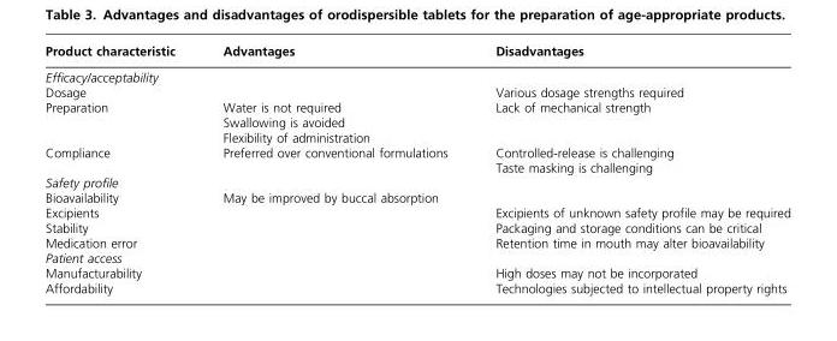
<table><thead><tr><td>Product characteristic</td><td>Advantages</td><td>Disadvantages</td></tr></thead><tbody><tr><td colspan="3">Efficacy/acceptability</td></tr><tr><td>Dosage</td><td></td><td>Various dosage strengths required</td></tr><tr><td>Preparation</td><td>Water is not required Swallowing is avoided Flexibility of administration</td><td>Lack of mechanical strength</td></tr><tr><td>Compliance</td><td>Preferred over conventional formulations</td><td>Controlled-release is challenging Taste masking is challenging</td></tr><tr><td colspan="3">Safety profile</td></tr><tr><td>Bioavailability</td><td>May be improved by buccal absorption</td><td></td></tr><tr><td>Excipients</td><td></td><td>Excipients of unknown safety profile may be required</td></tr><tr><td>Stability</td><td></td><td>Packaging and storage conditions can be critical</td></tr><tr><td>Medication error</td><td></td><td>Retention time in mouth may alter bioavailability</td></tr><tr><td colspan="3">Patient access</td></tr><tr><td>Manufacturability</td><td></td><td>High doses may not be incorporated</td></tr><tr><td>Affordability</td><td></td><td>Technologies subjected to intellectual property rights</td></tr></tbody></table>